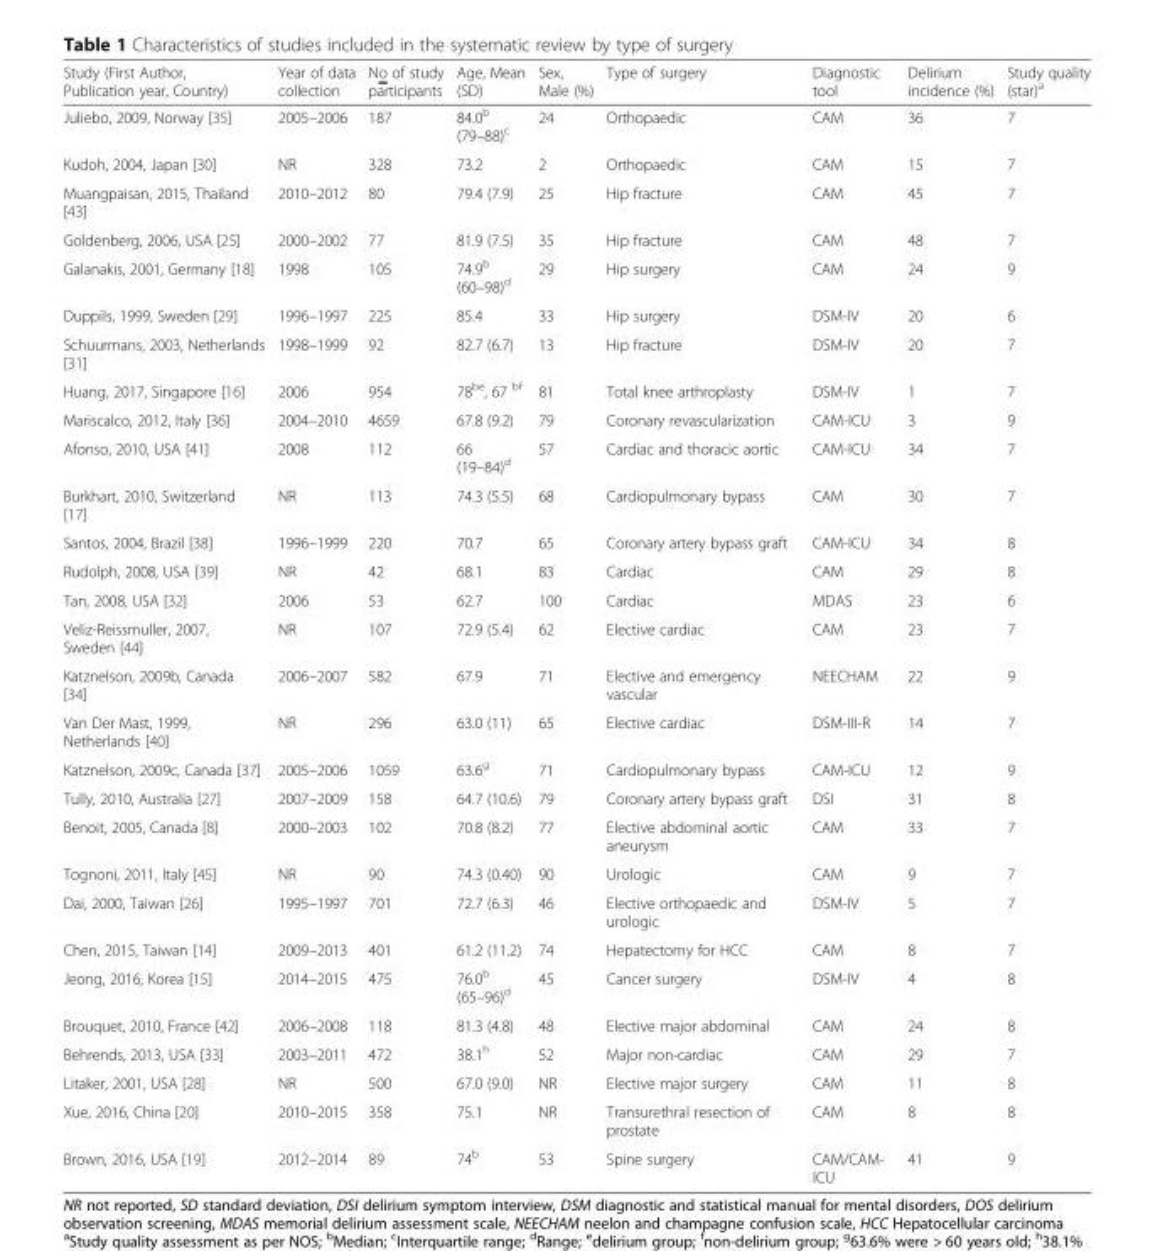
<table><thead><tr><td>Study (First Author, Publication year, Country)</td><td>Year of data collection</td><td>No of study participants</td><td>Age, Mean (SD)</td><td>Sex, Male (%)</td><td>Type of surgery</td><td>Diagnostic tool</td><td>Delirium incidence (%)</td><td>Study quality (star)<sup>a</sup></td></tr></thead><tbody><tr><td>Juliebo, 2009, Norway [35]</td><td>2005–2006</td><td>187</td><td>84.0<sup>b</sup> (79–88)<sup>c</sup></td><td>24</td><td>Orthopaedic</td><td>CAM</td><td>36</td><td>7</td></tr><tr><td>Kudoh, 2004, Japan [30]</td><td>NR</td><td>328</td><td>73.2</td><td>2</td><td>Orthopaedic</td><td>CAM</td><td>15</td><td>7</td></tr><tr><td>Muangpaisan, 2015, Thailand [43]</td><td>2010–2012</td><td>80</td><td>79.4 (7.9)</td><td>25</td><td>Hip fracture</td><td>CAM</td><td>45</td><td>7</td></tr><tr><td>Goldenberg, 2006, USA [25]</td><td>2000–2002</td><td>77</td><td>81.9 (7.5)</td><td>35</td><td>Hip fracture</td><td>CAM</td><td>48</td><td>7</td></tr><tr><td>Galanakis, 2001, Germany [18]</td><td>1998</td><td>105</td><td>74.9<sup>b</sup> (60–98)<sup>d</sup></td><td>29</td><td>Hip surgery</td><td>CAM</td><td>24</td><td>9</td></tr><tr><td>Duppils, 1999, Sweden [29]</td><td>1996–1997</td><td>225</td><td>85.4</td><td>33</td><td>Hip surgery</td><td>DSM-IV</td><td>20</td><td>6</td></tr><tr><td>Schuurmans, 2003, Netherlands [31]</td><td>1998–1999</td><td>92</td><td>82.7 (6.7)</td><td>13</td><td>Hip fracture</td><td>DSM-IV</td><td>20</td><td>7</td></tr><tr><td>Huang, 2017, Singapore [16]</td><td>2006</td><td>954</td><td>78<sup>be</sup>, 67 <sup>bf</sup></td><td>81</td><td>Total knee arthroplasty</td><td>DSM-IV</td><td>1</td><td>7</td></tr><tr><td>Mariscalco, 2012, Italy [36]</td><td>2004–2010</td><td>4659</td><td>67.8 (9.2)</td><td>79</td><td>Coronary revascularization</td><td>CAM-ICU</td><td>3</td><td>9</td></tr><tr><td>Afonso, 2010, USA [41]</td><td>2008</td><td>112</td><td>66 (19–84)<sup>d</sup></td><td>57</td><td>Cardiac and thoracic aortic</td><td>CAM-ICU</td><td>34</td><td>7</td></tr><tr><td>Burkhart, 2010, Switzerland [17]</td><td>NR</td><td>113</td><td>74.3 (5.5)</td><td>68</td><td>Cardiopulmonary bypass</td><td>CAM</td><td>30</td><td>7</td></tr><tr><td>Santos, 2004, Brazil [38]</td><td>1996–1999</td><td>220</td><td>70.7</td><td>65</td><td>Coronary artery bypass graft</td><td>CAM-ICU</td><td>34</td><td>8</td></tr><tr><td>Rudolph, 2008, USA [39]</td><td>NR</td><td>42</td><td>68.1</td><td>83</td><td>Cardiac</td><td>CAM</td><td>29</td><td>8</td></tr><tr><td>Tan, 2008, USA [32]</td><td>2006</td><td>53</td><td>62.7</td><td>100</td><td>Cardiac</td><td>MDAS</td><td>23</td><td>6</td></tr><tr><td>Veliz-Reissmuller, 2007, Sweden [44]</td><td>NR</td><td>107</td><td>72.9 (5.4)</td><td>62</td><td>Elective cardiac</td><td>CAM</td><td>23</td><td>7</td></tr><tr><td>Katznelson, 2009b, Canada [34]</td><td>2006–2007</td><td>582</td><td>67.9</td><td>71</td><td>Elective and emergency vascular</td><td>NEECHAM</td><td>22</td><td>9</td></tr><tr><td>Van Der Mast, 1999, Netherlands [40]</td><td>NR</td><td>296</td><td>63.0 (11)</td><td>65</td><td>Elective cardiac</td><td>DSM-III-R</td><td>14</td><td>7</td></tr><tr><td>Katznelson, 2009c, Canada [37]</td><td>2005–2006</td><td>1059</td><td>63.6<sup>g</sup></td><td>71</td><td>Cardiopulmonary bypass</td><td>CAM-ICU</td><td>12</td><td>9</td></tr><tr><td>Tully, 2010, Australia [27]</td><td>2007–2009</td><td>158</td><td>64.7 (10.6)</td><td>79</td><td>Coronary artery bypass graft</td><td>DSI</td><td>31</td><td>8</td></tr><tr><td>Benoit, 2005, Canada [8]</td><td>2000–2003</td><td>102</td><td>70.8 (8.2)</td><td>77</td><td>Elective abdominal aortic aneurysm</td><td>CAM</td><td>33</td><td>7</td></tr><tr><td>Tognoni, 2011, Italy [45]</td><td>NR</td><td>90</td><td>74.3 (0.40)</td><td>90</td><td>Urologic</td><td>CAM</td><td>9</td><td>7</td></tr><tr><td>Dai, 2000, Taiwan [26]</td><td>1995–1997</td><td>701</td><td>72.7 (6.3)</td><td>46</td><td>Elective orthopaedic and urologic</td><td>DSM-IV</td><td>5</td><td>7</td></tr><tr><td>Chen, 2015, Taiwan [14]</td><td>2009–2013</td><td>401</td><td>61.2 (11.2)</td><td>74</td><td>Hepatectomy for HCC</td><td>CAM</td><td>8</td><td>7</td></tr><tr><td>Jeong, 2016, Korea [15]</td><td>2014–2015</td><td>475</td><td>76.0<sup>b</sup> (65–96)<sup>d</sup></td><td>45</td><td>Cancer surgery</td><td>DSM-IV</td><td>4</td><td>8</td></tr><tr><td>Brouquet, 2010, France [42]</td><td>2006–2008</td><td>118</td><td>81.3 (4.8)</td><td>48</td><td>Elective major abdominal</td><td>CAM</td><td>24</td><td>8</td></tr><tr><td>Behrends, 2013, USA [33]</td><td>2003–2011</td><td>472</td><td>38.1<sup>h</sup></td><td>52</td><td>Major non-cardiac</td><td>CAM</td><td>29</td><td>7</td></tr><tr><td>Litaker, 2001, USA [28]</td><td>NR</td><td>500</td><td>67.0 (9.0)</td><td>NR</td><td>Elective major surgery</td><td>CAM</td><td>11</td><td>8</td></tr><tr><td>Xue, 2016, China [20]</td><td>2010–2015</td><td>358</td><td>75.1</td><td>NR</td><td>Transurethral resection of prostate</td><td>CAM</td><td>8</td><td>8</td></tr><tr><td>Brown, 2016, USA [19]</td><td>2012–2014</td><td>89</td><td>74<sup>b</sup></td><td>53</td><td>Spine surgery</td><td>CAM/CAM- ICU</td><td>41</td><td>9</td></tr></tbody></table>